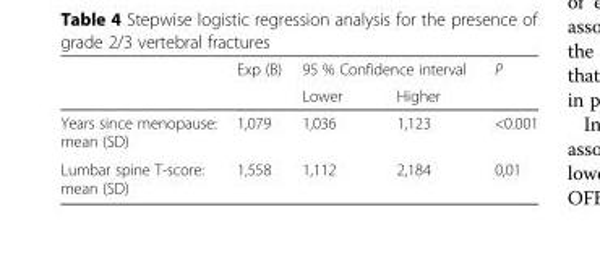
<table><thead><tr><td rowspan="2"></td><td rowspan="2">Exp (B)</td><td colspan="2">95 % Confidence interval</td><td rowspan="2">P</td></tr><tr><td>Lower</td><td>Higher</td></tr></thead><tbody><tr><td>Years since menopause: mean (SD)</td><td>1,079</td><td>1,036</td><td>1,123</td><td>&lt;0.001</td></tr><tr><td>Lumbar spine T-score: mean (SD)</td><td>1,558</td><td>1,112</td><td>2,184</td><td>0,01</td></tr></tbody></table>